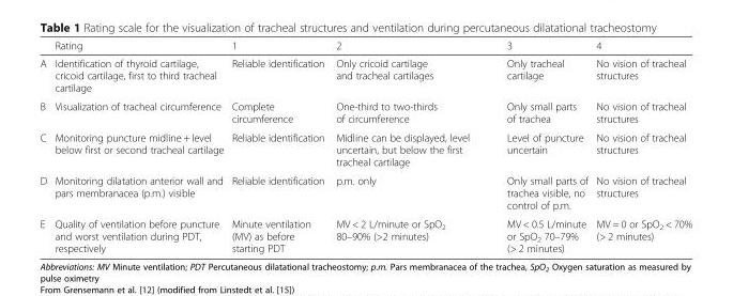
<table><thead><tr><td></td><td>Rating</td><td>1</td><td>2</td><td>3</td><td>4</td></tr></thead><tbody><tr><td>A</td><td>Identification of thyroid cartilage, cricoid cartilage, first to third tracheal cartilage</td><td>Reliable identification</td><td>Only cricoid cartilage and tracheal cartilages</td><td>Only tracheal cartilage</td><td>No vision of tracheal structures</td></tr><tr><td>B</td><td>Visualization of tracheal circumference</td><td>Complete circumference</td><td>One-third to two-thirds of circumference</td><td>Only small parts of trachea</td><td>No vision of tracheal structures</td></tr><tr><td>C</td><td>Monitoring puncture midline + level below first or second tracheal cartilage</td><td>Reliable identification</td><td>Midline can be displayed, level uncertain, but below the first tracheal cartilage</td><td>Level of puncture uncertain</td><td>No vision of tracheal structures</td></tr><tr><td>D</td><td>Monitoring dilatation anterior wall and pars membranacea (p.m.) visible</td><td>Reliable identification</td><td>p.m. only</td><td>Only small parts of trachea visible, no control of p.m.</td><td>No vision of tracheal structures</td></tr><tr><td>E</td><td>Quality of ventilation before puncture and worst ventilation during PDT, respectively</td><td>Minute ventilation (MV) as before starting PDT</td><td>MV &lt; 2 L/minute or SpO<sub>2</sub> 80–90% (&gt;2 minutes)</td><td>MV &lt; 0.5 L/minute or SpO<sub>2</sub> 70–79% (&gt; 2 minutes)</td><td>MV = 0 or SpO<sub>2</sub> &lt; 70% (&gt; 2 minutes)</td></tr></tbody></table>